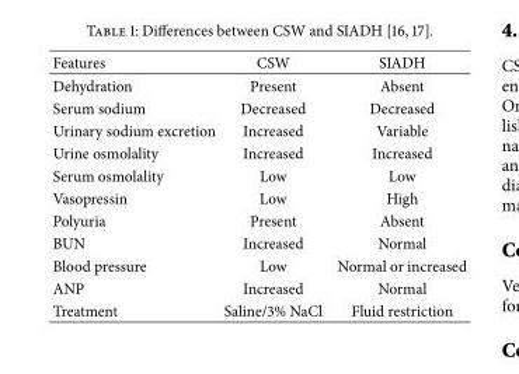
<table><thead><tr><td>Features</td><td>CSW</td><td>SIADH</td></tr></thead><tbody><tr><td>Dehydration</td><td>Present</td><td>Absent</td></tr><tr><td>Serum sodium</td><td>Decreased</td><td>Decreased</td></tr><tr><td>Urinary sodium excretion</td><td>Increased</td><td>Variable</td></tr><tr><td>Urine osmolality</td><td>Increased</td><td>Increased</td></tr><tr><td>Serum osmolality</td><td>Low</td><td>Low</td></tr><tr><td>Vasopressin</td><td>Low</td><td>High</td></tr><tr><td>Polyuria</td><td>Present</td><td>Absent</td></tr><tr><td>BUN</td><td>Increased</td><td>Normal</td></tr><tr><td>Blood pressure</td><td>Low</td><td>Normal or increased</td></tr><tr><td>ANP</td><td>Increased</td><td>Normal</td></tr><tr><td>Treatment</td><td>Saline/3% NaCl</td><td>Fluid restriction</td></tr></tbody></table>